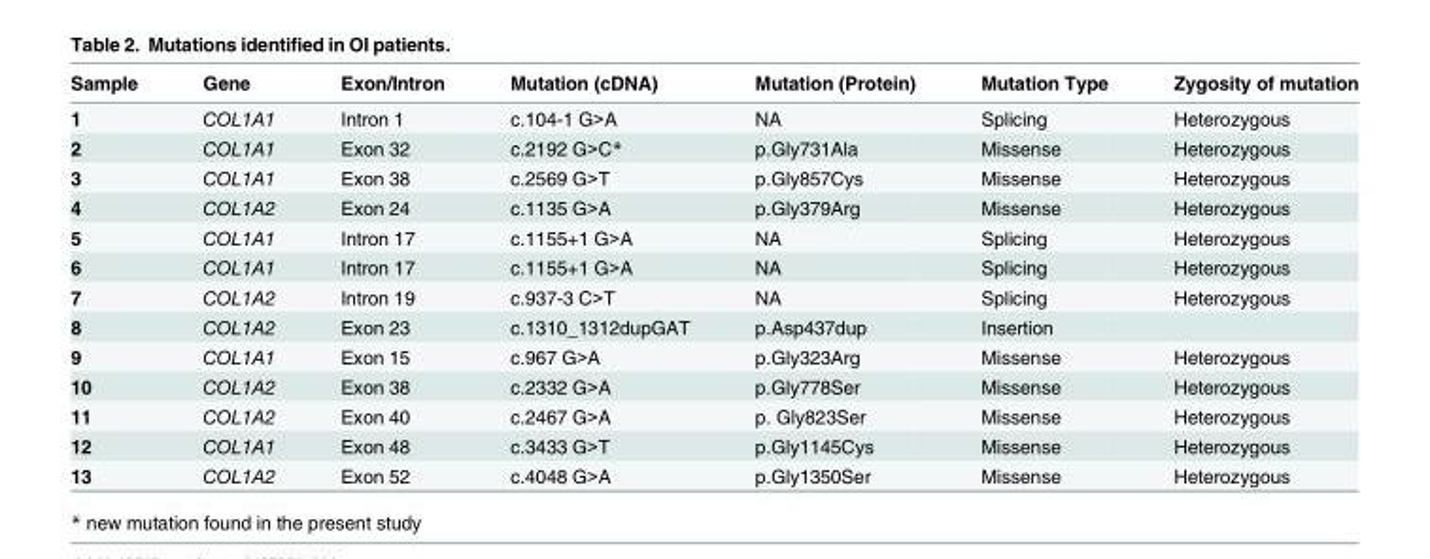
<table><thead><tr><td>Sample</td><td>Gene</td><td>Exon/Intron</td><td>Mutation (cDNA)</td><td>Mutation (Protein)</td><td>Mutation Type</td><td>Zygosity of mutation</td></tr></thead><tbody><tr><td>1</td><td>COL1A1</td><td>Intron 1</td><td>c.104-1 G&gt;A</td><td>NA</td><td>Splicing</td><td>Heterozygous</td></tr><tr><td>2</td><td>COL1A1</td><td>Exon 32</td><td>c.2192 G&gt;C*</td><td>p.Gly731Ala</td><td>Missense</td><td>Heterozygous</td></tr><tr><td>3</td><td>COL1A1</td><td>Exon 38</td><td>c.2569 G&gt;T</td><td>p.Gly857Cys</td><td>Missense</td><td>Heterozygous</td></tr><tr><td>4</td><td>COL1A2</td><td>Exon 24</td><td>c.1135 G&gt;A</td><td>p.Gly379Arg</td><td>Missense</td><td>Heterozygous</td></tr><tr><td>5</td><td>COL1A1</td><td>Intron 17</td><td>c.1155+1 G&gt;A</td><td>NA</td><td>Splicing</td><td>Heterozygous</td></tr><tr><td>6</td><td>COL1A1</td><td>Intron 17</td><td>c.1155+1 G&gt;A</td><td>NA</td><td>Splicing</td><td>Heterozygous</td></tr><tr><td>7</td><td>COL1A2</td><td>Intron 19</td><td>c.937-3 C&gt;T</td><td>NA</td><td>Splicing</td><td>Heterozygous</td></tr><tr><td>8</td><td>COL1A2</td><td>Exon 23</td><td>c.1310_1312dupGAT</td><td>p.Asp437dup</td><td>Insertion</td><td></td></tr><tr><td>9</td><td>COL1A1</td><td>Exon 15</td><td>c.967 G&gt;A</td><td>p.Gly323Arg</td><td>Missense</td><td>Heterozygous</td></tr><tr><td>10</td><td>COL1A2</td><td>Exon 38</td><td>c.2332 G&gt;A</td><td>p.Gly778Ser</td><td>Missense</td><td>Heterozygous</td></tr><tr><td>11</td><td>COL1A2</td><td>Exon 40</td><td>c.2467 G&gt;A</td><td>p. Gly823Ser</td><td>Missense</td><td>Heterozygous</td></tr><tr><td>12</td><td>COL1A1</td><td>Exon 48</td><td>c.3433 G&gt;T</td><td>p.Gly1145Cys</td><td>Missense</td><td>Heterozygous</td></tr><tr><td>13</td><td>COL1A2</td><td>Exon 52</td><td>c.4048 G&gt;A</td><td>p.Gly1350Ser</td><td>Missense</td><td>Heterozygous</td></tr></tbody></table>